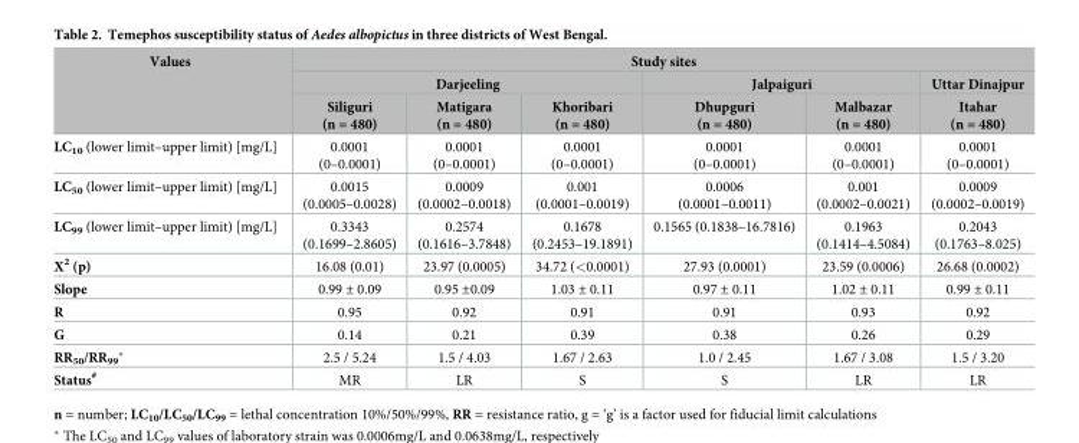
<table><thead><tr><td rowspan="3">Values</td><td colspan="6">Study sites</td></tr><tr><td colspan="3">Darjeeling</td><td colspan="2">Jalpaiguri</td><td rowspan="2">Uttar Dinajpur Itahar (n = 480)</td></tr><tr><td>Siliguri (n = 480)</td><td>Matigara (n = 480)</td><td>Khoribari (n = 480)</td><td>Dhupguri (n = 480)</td><td>Malbazar (n = 480)</td></tr></thead><tbody><tr><td>LC<sub>10</sub> (lower limit–upper limit) [mg/L]</td><td>0.0001 (0–0.0001)</td><td>0.0001 (0–0.0001)</td><td>0.0001 (0–0.0001)</td><td>0.0001 (0–0.0001)</td><td>0.0001 (0–0.0001)</td><td>0.0001 (0–0.0001)</td></tr><tr><td>LC<sub>50</sub> (lower limit–upper limit) [mg/L]</td><td>0.0015 (0.0005–0.0028)</td><td>0.0009 (0.0002–0.0018)</td><td>0.001 (0.0001–0.0019)</td><td>0.0006 (0.0001–0.0011)</td><td>0.001 (0.0002–0.0021)</td><td>0.0009 (0.0002–0.0019)</td></tr><tr><td>LC<sub>99</sub> (lower limit–upper limit) [mg/L]</td><td>0.3343 (0.1699–2.8605)</td><td>0.2574 (0.1616–3.7848)</td><td>0.1678 (0.2453–19.1891)</td><td>0.1565 (0.1838–16.7816)</td><td>0.1963 (0.1414–4.5084)</td><td>0.2043 (0.1763–8.025)</td></tr><tr><td>X<sup>2</sup> (p)</td><td>16.08 (0.01)</td><td>23.97 (0.0005)</td><td>34.72 (&lt;0.0001)</td><td>27.93 (0.0001)</td><td>23.59 (0.0006)</td><td>26.68 (0.0002)</td></tr><tr><td>Slope</td><td>0.99 ± 0.09</td><td>0.95 ±0.09</td><td>1.03 ± 0.11</td><td>0.97 ± 0.11</td><td>1.02 ± 0.11</td><td>0.99 ± 0.11</td></tr><tr><td>R</td><td>0.95</td><td>0.92</td><td>0.91</td><td>0.91</td><td>0.93</td><td>0.92</td></tr><tr><td>G</td><td>0.14</td><td>0.21</td><td>0.39</td><td>0.38</td><td>0.26</td><td>0.29</td></tr><tr><td>RR<sub>50</sub>/RR<sub>99</sub>*</td><td>2.5 / 5.24</td><td>1.5 / 4.03</td><td>1.67 / 2.63</td><td>1.0 / 2.45</td><td>1.67 / 3.08</td><td>1.5 / 3.20</td></tr><tr><td>Status<sup>#</sup></td><td>MR</td><td>LR</td><td>S</td><td>S</td><td>LR</td><td>LR</td></tr></tbody></table>